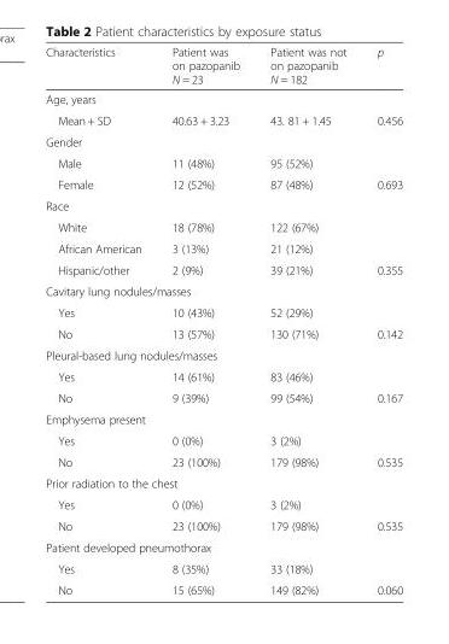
<table><thead><tr><td>Characteristics</td><td>Patient was on pazopanib N = 23</td><td>Patient was not on pazopanib N = 182</td><td>p</td></tr></thead><tbody><tr><td colspan="4">Age, years</td></tr><tr><td>Mean + SD</td><td>40.63 + 3.23</td><td>43. 81 + 1.45</td><td>0.456</td></tr><tr><td colspan="4">Gender</td></tr><tr><td>Male</td><td>11 (48%)</td><td>95 (52%)</td><td></td></tr><tr><td>Female</td><td>12 (52%)</td><td>87 (48%)</td><td>0.693</td></tr><tr><td colspan="4">Race</td></tr><tr><td>White</td><td>18 (78%)</td><td>122 (67%)</td><td></td></tr><tr><td>African American</td><td>3 (13%)</td><td>21 (12%)</td><td></td></tr><tr><td>Hispanic/other</td><td>2 (9%)</td><td>39 (21%)</td><td>0.355</td></tr><tr><td colspan="4">Cavitary lung nodules/masses</td></tr><tr><td>Yes</td><td>10 (43%)</td><td>52 (29%)</td><td></td></tr><tr><td>No</td><td>13 (57%)</td><td>130 (71%)</td><td>0.142</td></tr><tr><td colspan="4">Pleural-based lung nodules/masses</td></tr><tr><td>Yes</td><td>14 (61%)</td><td>83 (46%)</td><td></td></tr><tr><td>No</td><td>9 (39%)</td><td>99 (54%)</td><td>0.167</td></tr><tr><td colspan="4">Emphysema present</td></tr><tr><td>Yes</td><td>0 (0%)</td><td>3 (2%)</td><td></td></tr><tr><td>No</td><td>23 (100%)</td><td>179 (98%)</td><td>0.535</td></tr><tr><td colspan="4">Prior radiation to the chest</td></tr><tr><td>Yes</td><td>0 (0%)</td><td>3 (2%)</td><td></td></tr><tr><td>No</td><td>23 (100%)</td><td>179 (98%)</td><td>0.535</td></tr><tr><td colspan="4">Patient developed pneumothorax</td></tr><tr><td>Yes</td><td>8 (35%)</td><td>33 (18%)</td><td></td></tr><tr><td>No</td><td>15 (65%)</td><td>149 (82%)</td><td>0.060</td></tr></tbody></table>